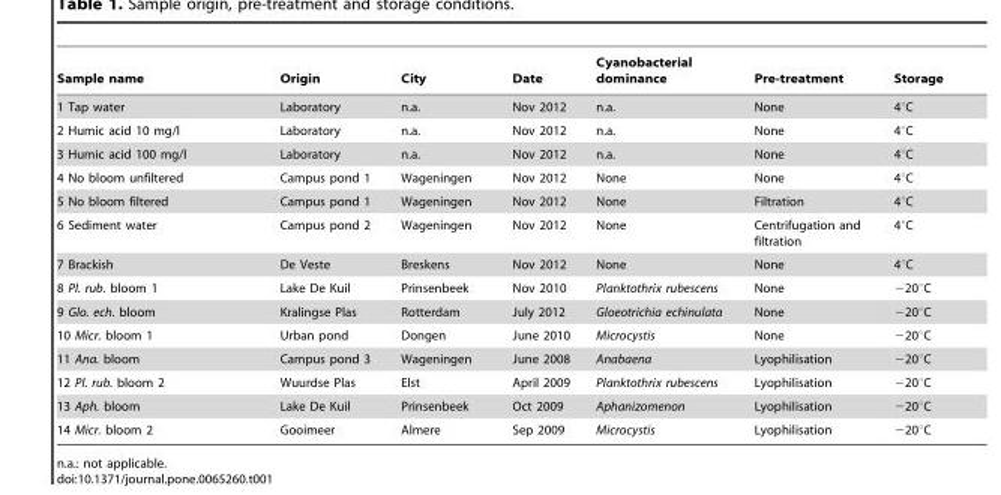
<table><thead><tr><td>Sample name</td><td>Origin</td><td>City</td><td>Date</td><td>Cyanobacterial dominance</td><td>Pre-treatment</td><td>Storage</td></tr></thead><tbody><tr><td>1 Tap water</td><td>Laboratory</td><td>n.a.</td><td>Nov 2012</td><td>n.a.</td><td>None</td><td>4°C</td></tr><tr><td>2 Humic acid 10 mg/l</td><td>Laboratory</td><td>n.a.</td><td>Nov 2012</td><td>n.a.</td><td>None</td><td>4°C</td></tr><tr><td>3 Humic acid 100 mg/l</td><td>Laboratory</td><td>n.a.</td><td>Nov 2012</td><td>n.a.</td><td>None</td><td>4°C</td></tr><tr><td>4 No bloom unfiltered</td><td>Campus pond 1</td><td>Wageningen</td><td>Nov 2012</td><td>None</td><td>None</td><td>4°C</td></tr><tr><td>5 No bloom filtered</td><td>Campus pond 1</td><td>Wageningen</td><td>Nov 2012</td><td>None</td><td>Filtration</td><td>4°C</td></tr><tr><td>6 Sediment water</td><td>Campus pond 2</td><td>Wageningen</td><td>Nov 2012</td><td>None</td><td>Centrifugation and filtration</td><td>4°C</td></tr><tr><td>7 Brackish</td><td>De Veste</td><td>Breskens</td><td>Nov 2012</td><td>None</td><td>None</td><td>4°C</td></tr><tr><td>8 Pl. rub. bloom 1</td><td>Lake De Kuil</td><td>Prinsenbeek</td><td>Nov 2010</td><td>Planktothrix rubescens</td><td>None</td><td>−20°C</td></tr><tr><td>9 Glo. ech. bloom</td><td>Kralingse Plas</td><td>Rotterdam</td><td>July 2012</td><td>Gloeotrichia echinulata</td><td>None</td><td>−20°C</td></tr><tr><td>10 Micr. bloom 1</td><td>Urban pond</td><td>Dongen</td><td>June 2010</td><td>Microcystis</td><td>None</td><td>−20°C</td></tr><tr><td>11 Ana. bloom</td><td>Campus pond 3</td><td>Wageningen</td><td>June 2008</td><td>Anabaena</td><td>Lyophilisation</td><td>−20°C</td></tr><tr><td>12 Pl. rub. bloom 2</td><td>Wuurdse Plas</td><td>Elst</td><td>April 2009</td><td>Planktothrix rubescens</td><td>Lyophilisation</td><td>−20°C</td></tr><tr><td>13 Aph. bloom</td><td>Lake De Kuil</td><td>Prinsenbeek</td><td>Oct 2009</td><td>Aphanizomenon</td><td>Lyophilisation</td><td>−20°C</td></tr><tr><td>14 Micr. bloom 2</td><td>Gooimeer</td><td>Almere</td><td>Sep 2009</td><td>Microcystis</td><td>Lyophilisation</td><td>−20°C</td></tr></tbody></table>